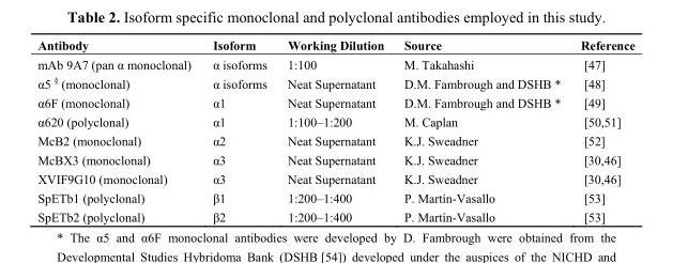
<table><thead><tr><td>Antibody</td><td>Isoform</td><td>Working Dilution</td><td>Source</td><td>Reference</td></tr></thead><tbody><tr><td>mAb 9A7 (pan α monoclonal)</td><td>α isoforms</td><td>1:100</td><td>M. Takahashi</td><td>[47]</td></tr><tr><td>α5 § (monoclonal)</td><td>α isoforms</td><td>Neat Supernatant</td><td>D.M. Fambrough and DSHB *</td><td>[48]</td></tr><tr><td>α6F (monoclonal)</td><td>α1</td><td>Neat Supernatant</td><td>D.M. Fambrough and DSHB *</td><td>[49]</td></tr><tr><td>α620 (polyclonal)</td><td>α1</td><td>1:100–1:200</td><td>M. Caplan</td><td>[50,51]</td></tr><tr><td>McB2 (monoclonal)</td><td>α2</td><td>Neat Supernatant</td><td>K.J. Sweadner</td><td>[52]</td></tr><tr><td>McBX3 (monoclonal)</td><td>α3</td><td>Neat Supernatant</td><td>K.J. Sweadner</td><td>[30,46]</td></tr><tr><td>XVIF9G10 (monoclonal)</td><td>α3</td><td>Neat Supernatant</td><td>K.J. Sweadner</td><td>[30,46]</td></tr><tr><td>SpETb1 (polyclonal)</td><td>β1</td><td>1:200–1:400</td><td>P. Martín-Vasallo</td><td>[53]</td></tr><tr><td>SpETb2 (polyclonal)</td><td>β2</td><td>1:200–1:400</td><td>P. Martín-Vasallo</td><td>[53]</td></tr></tbody></table>